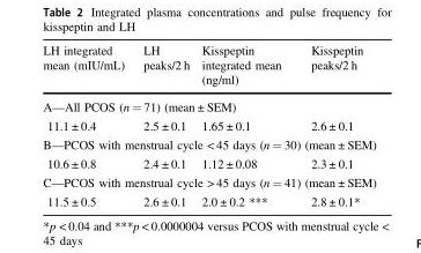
<table><thead><tr><td>LH integrated mean (mIU/mL)</td><td>LH peaks/2 h</td><td>Kisspeptin integrated mean (ng/ml)</td><td>Kisspeptin peaks/2 h</td></tr></thead><tbody><tr><td colspan="4">A—All PCOS (n = 71) (mean ± SEM)</td></tr><tr><td>11.1 ± 0.4</td><td>2.5 ± 0.1</td><td>1.65 ± 0.1</td><td>2.6 ± 0.1</td></tr><tr><td colspan="4">B—PCOS with menstrual cycle &lt; 45 days (n = 30) (mean ± SEM)</td></tr><tr><td>10.6 ± 0.8</td><td>2.4 ± 0.1</td><td>1.12 ± 0.08</td><td>2.3 ± 0.1</td></tr><tr><td colspan="4">C—PCOS with menstrual cycle &gt; 45 days (n = 41) (mean ± SEM)</td></tr><tr><td>11.5 ± 0.5</td><td>2.6 ± 0.1</td><td>2.0 ± 0.2 ***</td><td>2.8 ± 0.1*</td></tr></tbody></table>